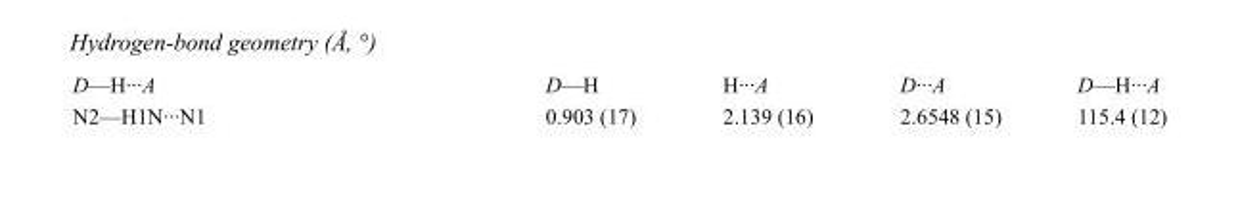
<table><tbody><tr><td>D—H···A</td><td>D—H</td><td>H···A</td><td>D···A</td><td>D—H···A</td></tr><tr><td>N2—H1N···N1</td><td>0.903 (17)</td><td>2.139 (16)</td><td>2.6548 (15)</td><td>115.4 (12)</td></tr></tbody></table>